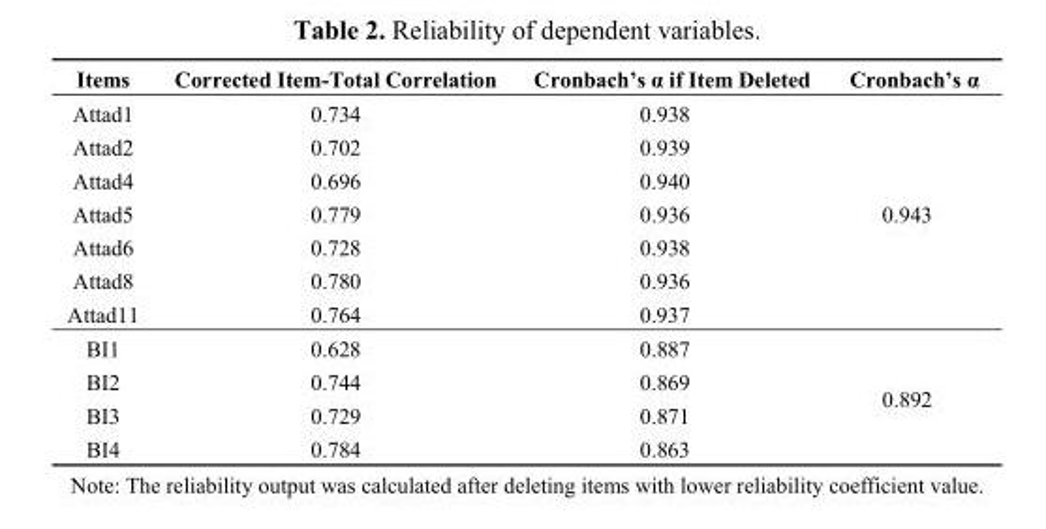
<table><thead><tr><td>Items</td><td>Corrected Item-Total Correlation</td><td>Cronbach’s α if Item Deleted</td><td>Cronbach’s α</td></tr></thead><tbody><tr><td>Attad1</td><td>0.734</td><td>0.938</td><td rowspan="7">0.943</td></tr><tr><td>Attad2</td><td>0.702</td><td>0.939</td></tr><tr><td>Attad4</td><td>0.696</td><td>0.940</td></tr><tr><td>Attad5</td><td>0.779</td><td>0.936</td></tr><tr><td>Attad6</td><td>0.728</td><td>0.938</td></tr><tr><td>Attad8</td><td>0.780</td><td>0.936</td></tr><tr><td>Attad11</td><td>0.764</td><td>0.937</td></tr><tr><td>BI1</td><td>0.628</td><td>0.887</td><td rowspan="4">0.892</td></tr><tr><td>BI2</td><td>0.744</td><td>0.869</td></tr><tr><td>BI3</td><td>0.729</td><td>0.871</td></tr><tr><td>BI4</td><td>0.784</td><td>0.863</td></tr></tbody></table>